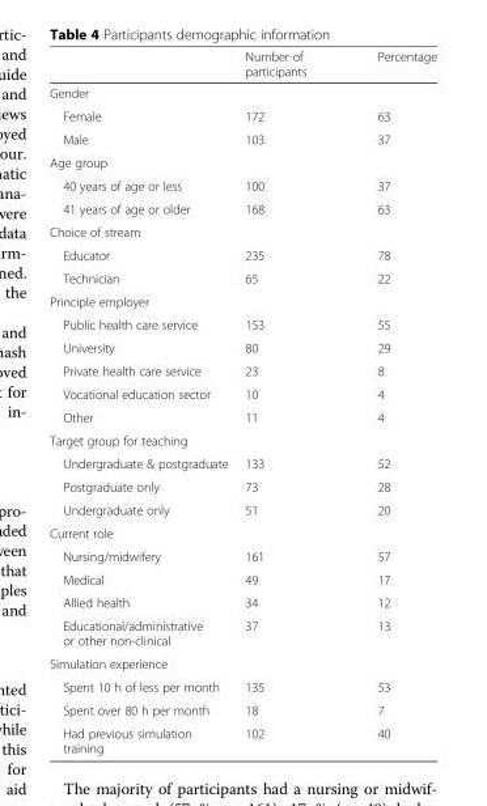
<table><thead><tr><td></td><td>Number of participants</td><td>Percentage</td></tr></thead><tbody><tr><td colspan="3">Gender</td></tr><tr><td>Female</td><td>172</td><td>63</td></tr><tr><td>Male</td><td>103</td><td>37</td></tr><tr><td colspan="3">Age group</td></tr><tr><td>40 years of age or less</td><td>100</td><td>37</td></tr><tr><td>41 years of age or older</td><td>168</td><td>63</td></tr><tr><td colspan="3">Choice of stream</td></tr><tr><td>Educator</td><td>235</td><td>78</td></tr><tr><td>Technician</td><td>65</td><td>22</td></tr><tr><td colspan="3">Principle employer</td></tr><tr><td>Public health care service</td><td>153</td><td>55</td></tr><tr><td>University</td><td>80</td><td>29</td></tr><tr><td>Private health care service</td><td>23</td><td>8</td></tr><tr><td>Vocational education sector</td><td>10</td><td>4</td></tr><tr><td>Other</td><td>11</td><td>4</td></tr><tr><td colspan="3">Target group for teaching</td></tr><tr><td>Undergraduate &amp; postgraduate</td><td>133</td><td>52</td></tr><tr><td>Postgraduate only</td><td>73</td><td>28</td></tr><tr><td>Undergraduate only</td><td>51</td><td>20</td></tr><tr><td colspan="3">Current role</td></tr><tr><td>Nursing/midwifery</td><td>161</td><td>57</td></tr><tr><td>Medical</td><td>49</td><td>17</td></tr><tr><td>Allied health</td><td>34</td><td>12</td></tr><tr><td>Educational/administrative or other non-clinical</td><td>37</td><td>13</td></tr><tr><td colspan="3">Simulation experience</td></tr><tr><td>Spent 10 h of less per month</td><td>135</td><td>53</td></tr><tr><td>Spent over 80 h per month</td><td>18</td><td>7</td></tr><tr><td>Had previous simulation training</td><td>102</td><td>40</td></tr></tbody></table>